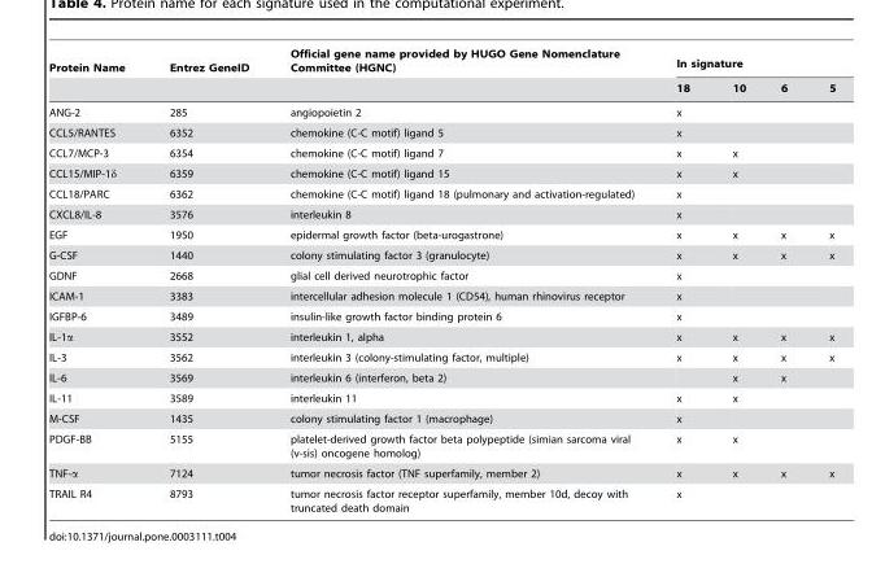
<table><thead><tr><td rowspan="2">Protein Name</td><td rowspan="2">Entrez GeneID</td><td rowspan="2">Official gene name provided by HUGO Gene Nomenclature Committee (HGNC)</td><td colspan="4">In signature</td></tr><tr><td>18</td><td>10</td><td>6</td><td>5</td></tr></thead><tbody><tr><td>ANG-2</td><td>285</td><td>angiopoietin 2</td><td>x</td><td></td><td></td><td></td></tr><tr><td>CCL5/RANTES</td><td>6352</td><td>chemokine (C-C motif) ligand 5</td><td>x</td><td></td><td></td><td></td></tr><tr><td>CCL7/MCP-3</td><td>6354</td><td>chemokine (C-C motif) ligand 7</td><td>x</td><td>x</td><td></td><td></td></tr><tr><td>CCL15/MIP-1δ</td><td>6359</td><td>chemokine (C-C motif) ligand 15</td><td>x</td><td>x</td><td></td><td></td></tr><tr><td>CCL18/PARC</td><td>6362</td><td>chemokine (C-C motif) ligand 18 (pulmonary and activation-regulated)</td><td>x</td><td></td><td></td><td></td></tr><tr><td>CXCL8/IL-8</td><td>3576</td><td>interleukin 8</td><td>x</td><td></td><td></td><td></td></tr><tr><td>EGF</td><td>1950</td><td>epidermal growth factor (beta-urogastrone)</td><td>x</td><td>x</td><td>x</td><td>x</td></tr><tr><td>G-CSF</td><td>1440</td><td>colony stimulating factor 3 (granulocyte)</td><td>x</td><td>x</td><td>x</td><td>x</td></tr><tr><td>GDNF</td><td>2668</td><td>glial cell derived neurotrophic factor</td><td>x</td><td></td><td></td><td></td></tr><tr><td>ICAM-1</td><td>3383</td><td>intercellular adhesion molecule 1 (CD54), human rhinovirus receptor</td><td>x</td><td></td><td></td><td></td></tr><tr><td>IGFBP-6</td><td>3489</td><td>insulin-like growth factor binding protein 6</td><td>x</td><td></td><td></td><td></td></tr><tr><td>IL-1α</td><td>3552</td><td>interleukin 1, alpha</td><td>x</td><td>x</td><td>x</td><td>x</td></tr><tr><td>IL-3</td><td>3562</td><td>interleukin 3 (colony-stimulating factor, multiple)</td><td>x</td><td>x</td><td>x</td><td>x</td></tr><tr><td>IL-6</td><td>3569</td><td>interleukin 6 (interferon, beta 2)</td><td></td><td>x</td><td>x</td><td></td></tr><tr><td>IL-11</td><td>3589</td><td>interleukin 11</td><td>x</td><td>x</td><td></td><td></td></tr><tr><td>M-CSF</td><td>1435</td><td>colony stimulating factor 1 (macrophage)</td><td>x</td><td></td><td></td><td></td></tr><tr><td>PDGF-BB</td><td>5155</td><td>platelet-derived growth factor beta polypeptide (simian sarcoma viral (v-sis) oncogene homolog)</td><td>x</td><td>x</td><td></td><td></td></tr><tr><td>TNF-α</td><td>7124</td><td>tumor necrosis factor (TNF superfamily, member 2)</td><td>x</td><td>x</td><td>x</td><td>x</td></tr><tr><td>TRAIL R4</td><td>8793</td><td>tumor necrosis factor receptor superfamily, member 10d, decoy with truncated death domain</td><td>x</td><td></td><td></td><td></td></tr></tbody></table>